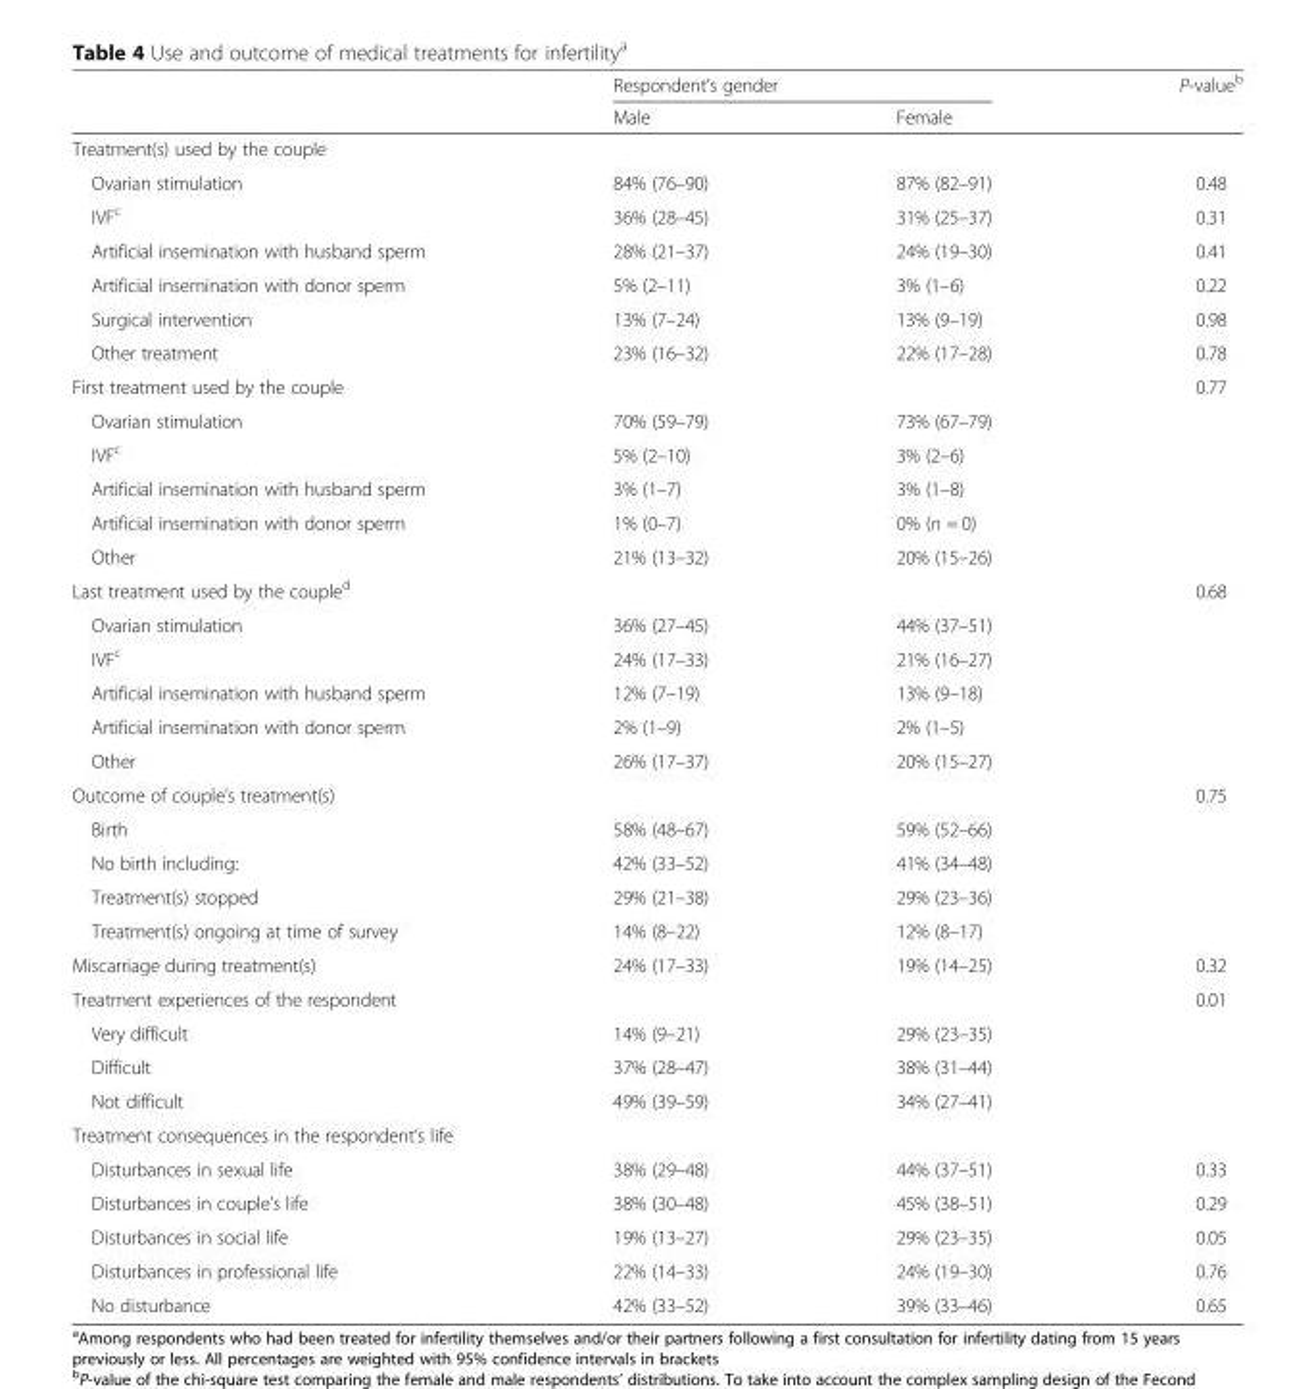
<table><thead><tr><td rowspan="2"></td><td colspan="2">Respondent’s gender</td><td rowspan="2">P-value<sup>b</sup></td></tr><tr><td>Male</td><td>Female</td></tr></thead><tbody><tr><td colspan="4">Treatment(s) used by the couple</td></tr><tr><td>Ovarian stimulation</td><td>84% (76–90)</td><td>87% (82–91)</td><td>0.48</td></tr><tr><td>IVF<sup>c</sup></td><td>36% (28–45)</td><td>31% (25–37)</td><td>0.31</td></tr><tr><td>Artificial insemination with husband sperm</td><td>28% (21–37)</td><td>24% (19–30)</td><td>0.41</td></tr><tr><td>Artificial insemination with donor sperm</td><td>5% (2–11)</td><td>3% (1–6)</td><td>0.22</td></tr><tr><td>Surgical intervention</td><td>13% (7–24)</td><td>13% (9–19)</td><td>0.98</td></tr><tr><td>Other treatment</td><td>23% (16–32)</td><td>22% (17–28)</td><td>0.78</td></tr><tr><td colspan="3">First treatment used by the couple</td><td>0.77</td></tr><tr><td>Ovarian stimulation</td><td>70% (59–79)</td><td>73% (67–79)</td><td></td></tr><tr><td>IVF<sup>c</sup></td><td>5% (2–10)</td><td>3% (2–6)</td><td></td></tr><tr><td>Artificial insemination with husband sperm</td><td>3% (1–7)</td><td>3% (1–8)</td><td></td></tr><tr><td>Artificial insemination with donor sperm</td><td>1% (0–7)</td><td>0% (n = 0)</td><td></td></tr><tr><td>Other</td><td>21% (13–32)</td><td>20% (15–26)</td><td></td></tr><tr><td colspan="3">Last treatment used by the couple<sup>d</sup></td><td>0.68</td></tr><tr><td>Ovarian stimulation</td><td>36% (27–45)</td><td>44% (37–51)</td><td></td></tr><tr><td>IVF<sup>c</sup></td><td>24% (17–33)</td><td>21% (16–27)</td><td></td></tr><tr><td>Artificial insemination with husband sperm</td><td>12% (7–19)</td><td>13% (9–18)</td><td></td></tr><tr><td>Artificial insemination with donor sperm</td><td>2% (1–9)</td><td>2% (1–5)</td><td></td></tr><tr><td>Other</td><td>26% (17–37)</td><td>20% (15–27)</td><td></td></tr><tr><td colspan="3">Outcome of couple’s treatment(s)</td><td>0.75</td></tr><tr><td>Birth</td><td>58% (48–67)</td><td>59% (52–66)</td><td></td></tr><tr><td>No birth including:</td><td>42% (33–52)</td><td>41% (34–48)</td><td></td></tr><tr><td>Treatment(s) stopped</td><td>29% (21–38)</td><td>29% (23–36)</td><td></td></tr><tr><td>Treatment(s) ongoing at time of survey</td><td>14% (8–22)</td><td>12% (8–17)</td><td></td></tr><tr><td>Miscarriage during treatment(s)</td><td>24% (17–33)</td><td>19% (14–25)</td><td>0.32</td></tr><tr><td colspan="3">Treatment experiences of the respondent</td><td>0.01</td></tr><tr><td>Very difficult</td><td>14% (9–21)</td><td>29% (23–35)</td><td></td></tr><tr><td>Difficult</td><td>37% (28–47)</td><td>38% (31–44)</td><td></td></tr><tr><td>Not difficult</td><td>49% (39–59)</td><td>34% (27–41)</td><td></td></tr><tr><td colspan="4">Treatment consequences in the respondent’s life</td></tr><tr><td>Disturbances in sexual life</td><td>38% (29–48)</td><td>44% (37–51)</td><td>0.33</td></tr><tr><td>Disturbances in couple’s life</td><td>38% (30–48)</td><td>45% (38–51)</td><td>0.29</td></tr><tr><td>Disturbances in social life</td><td>19% (13–27)</td><td>29% (23–35)</td><td>0.05</td></tr><tr><td>Disturbances in professional life</td><td>22% (14–33)</td><td>24% (19–30)</td><td>0.76</td></tr><tr><td>No disturbance</td><td>42% (33–52)</td><td>39% (33–46)</td><td>0.65</td></tr></tbody></table>